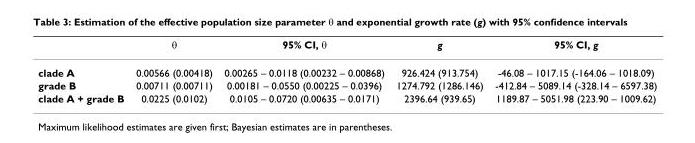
<table><thead><tr><td></td><td>θ</td><td>95% CI, θ</td><td>g</td><td>95% CI, g</td></tr></thead><tbody><tr><td>clade A</td><td>0.00566 (0.00418)</td><td>0.00265 – 0.0118 (0.00232 – 0.00868)</td><td>926.424 (913.754)</td><td>-46.08 – 1017.15 (-164.06 – 1018.09)</td></tr><tr><td>grade B</td><td>0.00711 (0.00711)</td><td>0.00181 – 0.0550 (0.00225 – 0.0396)</td><td>1274.792 (1286.146)</td><td>-412.84 – 5089.14 (-328.14 – 6597.38)</td></tr><tr><td>clade A + grade B</td><td>0.0225 (0.0102)</td><td>0.0105 – 0.0720 (0.00635 – 0.0171)</td><td>2396.64 (939.65)</td><td>1189.87 – 5051.98 (223.90 – 1009.62)</td></tr></tbody></table>